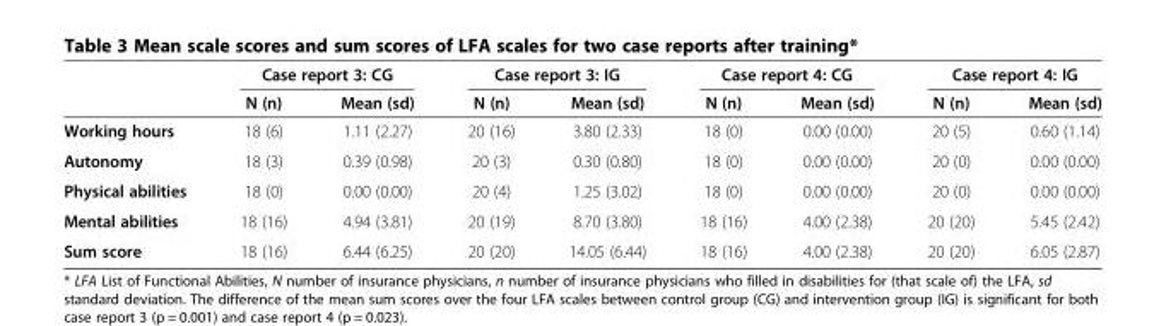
<table><thead><tr><td rowspan="2"></td><td colspan="2">Case report 3: CG</td><td colspan="2">Case report 3: IG</td><td colspan="2">Case report 4: CG</td><td colspan="2">Case report 4: IG</td></tr><tr><td>N (n)</td><td>Mean (sd)</td><td>N (n)</td><td>Mean (sd)</td><td>N (n)</td><td>Mean (sd)</td><td>N (n)</td><td>Mean (sd)</td></tr></thead><tbody><tr><td>Working hours</td><td>18 (6)</td><td>1.11 (2.27)</td><td>20 (16)</td><td>3.80 (2.33)</td><td>18 (0)</td><td>0.00 (0.00)</td><td>20 (5)</td><td>0.60 (1.14)</td></tr><tr><td>Autonomy</td><td>18 (3)</td><td>0.39 (0.98)</td><td>20 (3)</td><td>0.30 (0.80)</td><td>18 (0)</td><td>0.00 (0.00)</td><td>20 (0)</td><td>0.00 (0.00)</td></tr><tr><td>Physical abilities</td><td>18 (0)</td><td>0.00 (0.00)</td><td>20 (4)</td><td>1.25 (3.02)</td><td>18 (0)</td><td>0.00 (0.00)</td><td>20 (0)</td><td>0.00 (0.00)</td></tr><tr><td>Mental abilities</td><td>18 (16)</td><td>4.94 (3.81)</td><td>20 (19)</td><td>8.70 (3.80)</td><td>18 (16)</td><td>4.00 (2.38)</td><td>20 (20)</td><td>5.45 (2.42)</td></tr><tr><td>Sum score</td><td>18 (16)</td><td>6.44 (6.25)</td><td>20 (20)</td><td>14.05 (6.44)</td><td>18 (16)</td><td>4.00 (2.38)</td><td>20 (20)</td><td>6.05 (2.87)</td></tr></tbody></table>